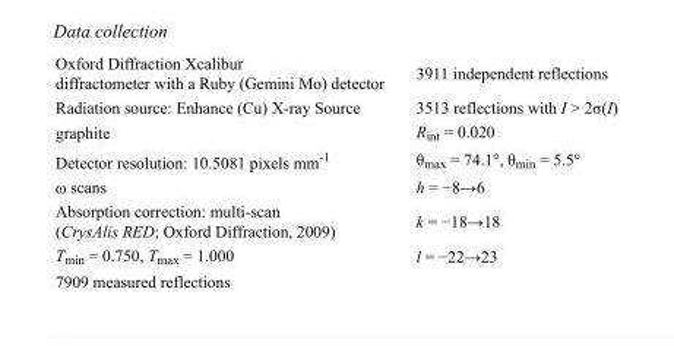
<table><tbody><tr><td>Oxford Diffraction Xcalibur diffractometer with a Ruby (Gemini Mo) detector</td><td>3911 independent reflections</td></tr><tr><td>Radiation source: Enhance (Cu) X-ray Source</td><td>3513 reflections with I &gt; 2σ(I)</td></tr><tr><td>graphite</td><td>R<sub>int</sub> = 0.020</td></tr><tr><td>Detector resolution: 10.5081 pixels mm<sup>-1</sup></td><td>θ<sub>max</sub> = 74.1°, θ<sub>min</sub> = 5.5°</td></tr><tr><td>ω scans</td><td>h = −8→6</td></tr><tr><td>Absorption correction: multi-scan (CrysAlis RED; Oxford Diffraction, 2009)</td><td>k = −18→18</td></tr><tr><td>T<sub>min</sub> = 0.750, T<sub>max</sub> = 1.000</td><td>l = −22→23</td></tr><tr><td>7909 measured reflections</td><td></td></tr></tbody></table>